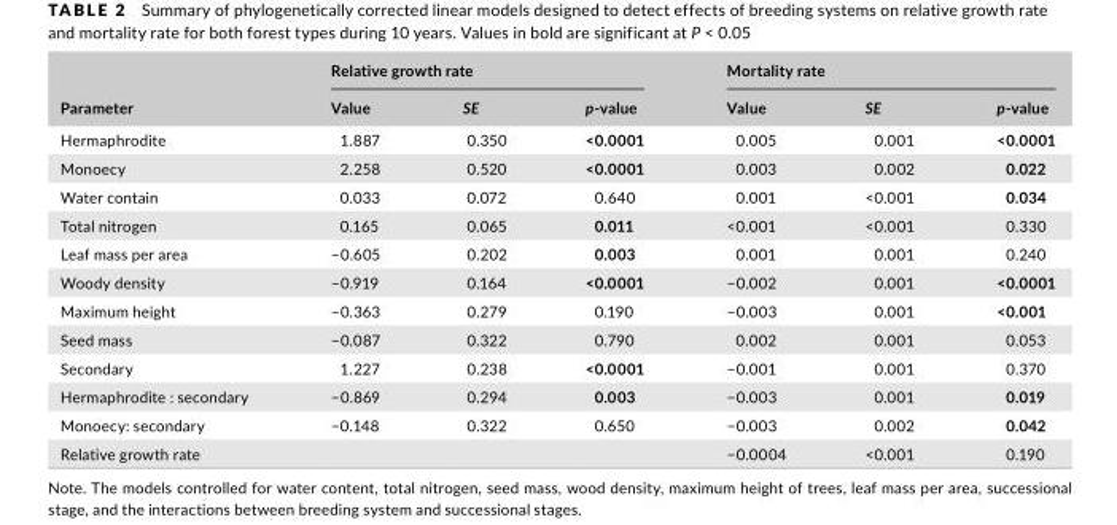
<table><thead><tr><td rowspan="2">Parameter</td><td colspan="3">Relative growth rate</td><td colspan="3">Mortality rate</td></tr><tr><td>Value</td><td>SE</td><td>p- value</td><td>Value</td><td>SE</td><td>p- value</td></tr></thead><tbody><tr><td>Hermaphrodite</td><td>1.887</td><td>0.350</td><td>&lt;0.0001</td><td>0.005</td><td>0.001</td><td>&lt;0.0001</td></tr><tr><td>Monoecy</td><td>2.258</td><td>0.520</td><td>&lt;0.0001</td><td>0.003</td><td>0.002</td><td>0.022</td></tr><tr><td>Water contain</td><td>0.033</td><td>0.072</td><td>0.640</td><td>0.001</td><td>&lt;0.001</td><td>0.034</td></tr><tr><td>Total nitrogen</td><td>0.165</td><td>0.065</td><td>0.011</td><td>&lt;0.001</td><td>&lt;0.001</td><td>0.330</td></tr><tr><td>Leaf mass per area</td><td>−0.605</td><td>0.202</td><td>0.003</td><td>0.001</td><td>0.001</td><td>0.240</td></tr><tr><td>Woody density</td><td>−0.919</td><td>0.164</td><td>&lt;0.0001</td><td>−0.002</td><td>0.001</td><td>&lt;0.0001</td></tr><tr><td>Maximum height</td><td>−0.363</td><td>0.279</td><td>0.190</td><td>−0.003</td><td>0.001</td><td>&lt;0.001</td></tr><tr><td>Seed mass</td><td>−0.087</td><td>0.322</td><td>0.790</td><td>0.002</td><td>0.001</td><td>0.053</td></tr><tr><td>Secondary</td><td>1.227</td><td>0.238</td><td>&lt;0.0001</td><td>−0.001</td><td>0.001</td><td>0.370</td></tr><tr><td>Hermaphrodite : secondary</td><td>−0.869</td><td>0.294</td><td>0.003</td><td>−0.003</td><td>0.001</td><td>0.019</td></tr><tr><td>Monoecy: secondary</td><td>−0.148</td><td>0.322</td><td>0.650</td><td>−0.003</td><td>0.002</td><td>0.042</td></tr><tr><td>Relative growth rate</td><td></td><td></td><td></td><td>−0.0004</td><td>&lt;0.001</td><td>0.190</td></tr></tbody></table>